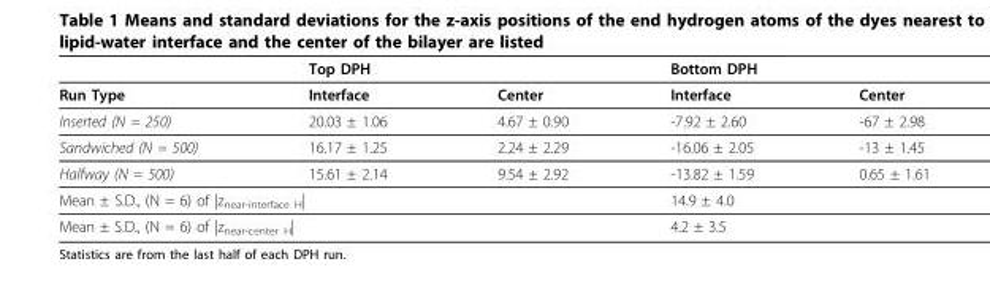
<table><thead><tr><td></td><td>Top DPH</td><td></td><td>Bottom DPH</td><td></td></tr></thead><tbody><tr><td>Run Type</td><td>Interface</td><td>Center</td><td>Interface</td><td>Center</td></tr><tr><td>Inserted (N = 250)</td><td>20.03 ± 1.06</td><td>4.67 ± 0.90</td><td>-7.92 ± 2.60</td><td>-67 ± 2.98</td></tr><tr><td>Sandwiched (N = 500)</td><td>16.17 ± 1.25</td><td>2.24 ± 2.29</td><td>-16.06 ± 2.05</td><td>-13 ± 1.45</td></tr><tr><td>Halfway (N = 500)</td><td>15.61 ± 2.14</td><td>9.54 ± 2.92</td><td>-13.82 ± 1.59</td><td>0.65 ± 1.61</td></tr><tr><td colspan="2">Mean ± S.D., (N = 6) of |z<sub>near-interface H</sub>|</td><td></td><td>14.9 ± 4.0</td><td></td></tr><tr><td colspan="2">Mean ± S.D., (N = 6) of |z<sub>near-center H</sub>|</td><td></td><td>4.2 ± 3.5</td><td></td></tr></tbody></table>